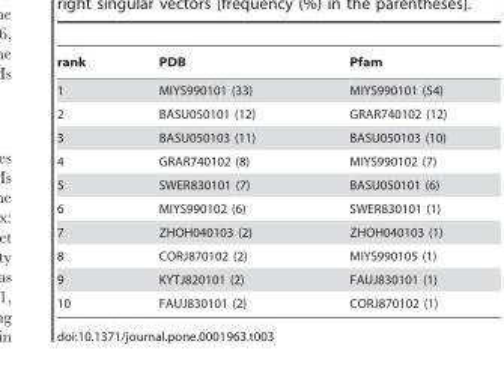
<table><thead><tr><td>rank</td><td>PDB</td><td>Pfam</td></tr></thead><tbody><tr><td>1</td><td>MIYS990101 (33)</td><td>MIYS990101 (54)</td></tr><tr><td>2</td><td>BASU050101 (12)</td><td>GRAR740102 (12)</td></tr><tr><td>3</td><td>BASU050103 (11)</td><td>BASU050103 (10)</td></tr><tr><td>4</td><td>GRAR740102 (8)</td><td>MIYS990102 (7)</td></tr><tr><td>5</td><td>SWER830101 (7)</td><td>BASU050101 (6)</td></tr><tr><td>6</td><td>MIYS990102 (6)</td><td>SWER830101 (1)</td></tr><tr><td>7</td><td>ZHOH040103 (2)</td><td>ZHOH040103 (1)</td></tr><tr><td>8</td><td>CORJ870102 (2)</td><td>MIYS990105 (1)</td></tr><tr><td>9</td><td>KYTJ820101 (2)</td><td>FAUJ830101 (1)</td></tr><tr><td>10</td><td>FAUJ830101 (2)</td><td>CORJ870102 (1)</td></tr></tbody></table>